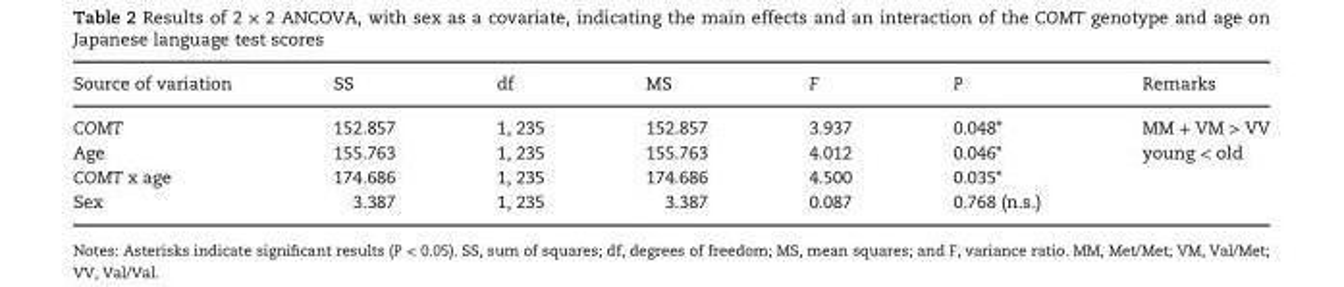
<table><thead><tr><td>Source of variation</td><td>SS</td><td>df</td><td>MS</td><td>F</td><td>P</td><td>Remarks</td></tr></thead><tbody><tr><td>COMT</td><td>152.857</td><td>1, 235</td><td>152.857</td><td>3.937</td><td>0.048*</td><td>MM + VM &gt; VV</td></tr><tr><td>Age</td><td>155.763</td><td>1, 235</td><td>155.763</td><td>4.012</td><td>0.046*</td><td>young &lt; old</td></tr><tr><td>COMT x age</td><td>174.686</td><td>1, 235</td><td>174.686</td><td>4.500</td><td>0.035*</td><td></td></tr><tr><td>Sex</td><td>3.387</td><td>1, 235</td><td>3.387</td><td>0.087</td><td>0.768 (n.s.)</td><td></td></tr></tbody></table>